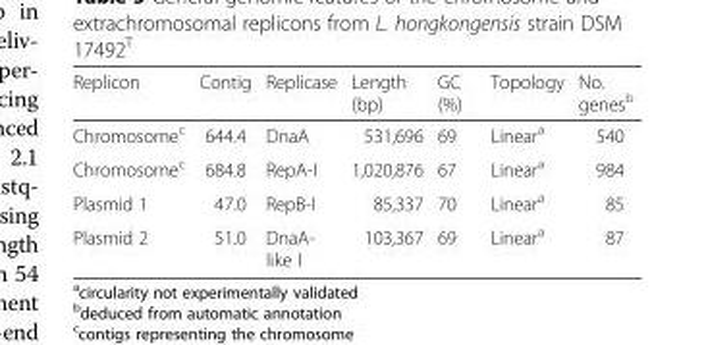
<table><thead><tr><td>Replicon</td><td>Contig</td><td>Replicase</td><td>Length (bp)</td><td>GC (%)</td><td>Topology</td><td>No. genes<sup>b</sup></td></tr></thead><tbody><tr><td>Chromosome<sup>c</sup></td><td>644.4</td><td>DnaA</td><td>531,696</td><td>69</td><td>Linear<sup>a</sup></td><td>540</td></tr><tr><td>Chromosome<sup>c</sup></td><td>684.8</td><td>RepA-I</td><td>1,020,876</td><td>67</td><td>Linear<sup>a</sup></td><td>984</td></tr><tr><td>Plasmid 1</td><td>47.0</td><td>RepB-I</td><td>85,337</td><td>70</td><td>Linear<sup>a</sup></td><td>85</td></tr><tr><td>Plasmid 2</td><td>51.0</td><td>DnaA- like I</td><td>103,367</td><td>69</td><td>Linear<sup>a</sup></td><td>87</td></tr></tbody></table>